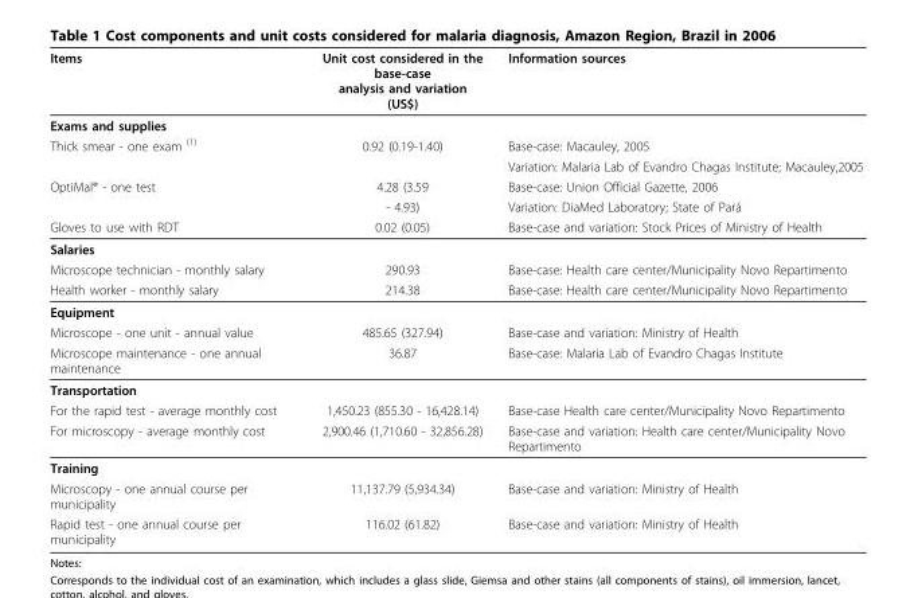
<table><thead><tr><td>Items</td><td>Unit cost considered in the base-case analysis and variation (US$)</td><td>Information sources</td></tr></thead><tbody><tr><td colspan="3">Exams and supplies</td></tr><tr><td rowspan="2">Thick smear - one exam <sup>(1)</sup></td><td>0.92 (0.19-1.40)</td><td>Base-case: Macauley, 2005</td></tr><tr><td></td><td>Variation: Malaria Lab of Evandro Chagas Institute; Macauley,2005</td></tr><tr><td rowspan="2">OptiMal<sup>®</sup> - one test</td><td>4.28 (3.59</td><td>Base-case: Union Official Gazette, 2006</td></tr><tr><td>- 4.93)</td><td>Variation: DiaMed Laboratory; State of Pará</td></tr><tr><td>Gloves to use with RDT</td><td>0.02 (0.05)</td><td>Base-case and variation: Stock Prices of Ministry of Health</td></tr><tr><td colspan="3">Salaries</td></tr><tr><td>Microscope technician - monthly salary</td><td>290.93</td><td>Base-case: Health care center/Municipality Novo Repartimento</td></tr><tr><td>Health worker - monthly salary</td><td>214.38</td><td>Base-case: Health care center/Municipality Novo Repartimento</td></tr><tr><td colspan="3">Equipment</td></tr><tr><td>Microscope - one unit - annual value</td><td>485.65 (327.94)</td><td>Base-case and variation: Ministry of Health</td></tr><tr><td>Microscope maintenance - one annual maintenance</td><td>36.87</td><td>Base-case: Malaria Lab of Evandro Chagas Institute</td></tr><tr><td colspan="3">Transportation</td></tr><tr><td>For the rapid test - average monthly cost</td><td>1,450.23 (855.30 - 16,428.14)</td><td>Base-case Health care center/Municipality Novo Repartimento</td></tr><tr><td>For microscopy - average monthly cost</td><td>2,900.46 (1,710.60 - 32,856.28)</td><td>Base-case and variation: Health care center/Municipality Novo Repartimento</td></tr><tr><td colspan="3">Training</td></tr><tr><td>Microscopy - one annual course per municipality</td><td>11,137.79 (5,934.34)</td><td>Base-case and variation: Ministry of Health</td></tr><tr><td>Rapid test - one annual course per municipality</td><td>116.02 (61.82)</td><td>Base-case and variation: Ministry of Health</td></tr></tbody></table>